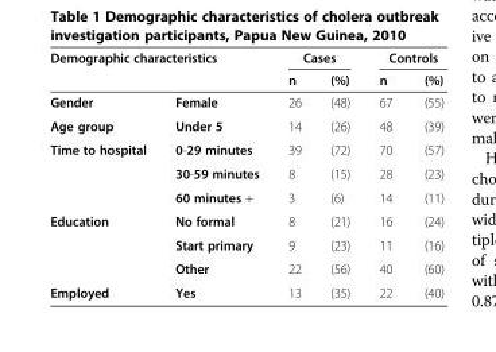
<table><thead><tr><td colspan="2">Demographic characteristics</td><td colspan="2">Cases</td><td colspan="2">Controls</td></tr><tr><td></td><td></td><td>n</td><td>(%)</td><td>n</td><td>(%)</td></tr></thead><tbody><tr><td>Gender</td><td>Female</td><td>26</td><td>(48)</td><td>67</td><td>(55)</td></tr><tr><td>Age group</td><td>Under 5</td><td>14</td><td>(26)</td><td>48</td><td>(39)</td></tr><tr><td rowspan="3">Time to hospital</td><td>0-29 minutes</td><td>39</td><td>(72)</td><td>70</td><td>(57)</td></tr><tr><td>30-59 minutes</td><td>8</td><td>(15)</td><td>28</td><td>(23)</td></tr><tr><td>60 minutes +</td><td>3</td><td>(6)</td><td>14</td><td>(11)</td></tr><tr><td rowspan="3">Education</td><td>No formal</td><td>8</td><td>(21)</td><td>16</td><td>(24)</td></tr><tr><td>Start primary</td><td>9</td><td>(23)</td><td>11</td><td>(16)</td></tr><tr><td>Other</td><td>22</td><td>(56)</td><td>40</td><td>(60)</td></tr><tr><td>Employed</td><td>Yes</td><td>13</td><td>(35)</td><td>22</td><td>(40)</td></tr></tbody></table>